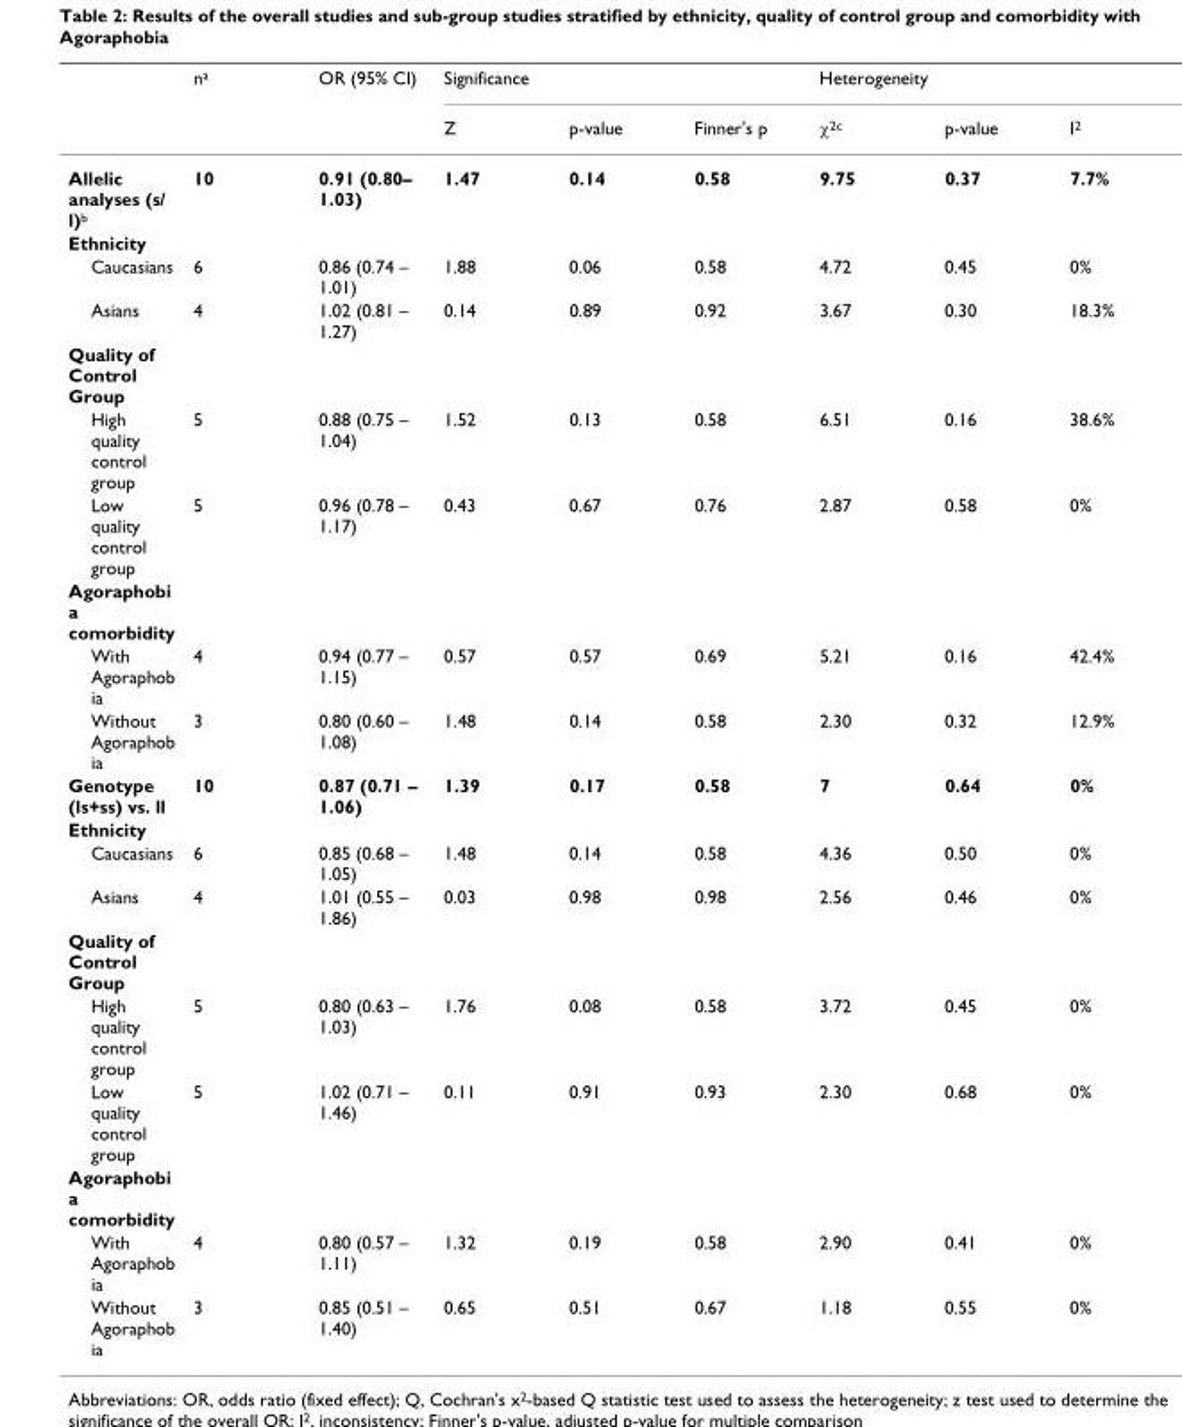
<table><thead><tr><td rowspan="2"></td><td rowspan="2">n<sup>a</sup></td><td rowspan="2">OR (95% CI)</td><td colspan="3">Significance</td><td colspan="3">Heterogeneity</td></tr><tr><td>Z</td><td>p-value</td><td>Finner&#x27;s p</td><td>χ<sup>2c</sup></td><td>p-value</td><td>I<sup>2</sup></td></tr></thead><tbody><tr><td>Allelic analyses (s/ l)<sup>b</sup></td><td>10</td><td>0.91 (0.80– 1.03)</td><td>1.47</td><td>0.14</td><td>0.58</td><td>9.75</td><td>0.37</td><td>7.7%</td></tr><tr><td colspan="9">Ethnicity</td></tr><tr><td>Caucasians</td><td>6</td><td>0.86 (0.74 – 1.01)</td><td>1.88</td><td>0.06</td><td>0.58</td><td>4.72</td><td>0.45</td><td>0%</td></tr><tr><td>Asians</td><td>4</td><td>1.02 (0.81 – 1.27)</td><td>0.14</td><td>0.89</td><td>0.92</td><td>3.67</td><td>0.30</td><td>18.3%</td></tr><tr><td colspan="9">Quality of Control Group</td></tr><tr><td>High quality control group</td><td>5</td><td>0.88 (0.75 – 1.04)</td><td>1.52</td><td>0.13</td><td>0.58</td><td>6.51</td><td>0.16</td><td>38.6%</td></tr><tr><td>Low quality control group</td><td>5</td><td>0.96 (0.78 – 1.17)</td><td>0.43</td><td>0.67</td><td>0.76</td><td>2.87</td><td>0.58</td><td>0%</td></tr><tr><td colspan="9">Agoraphobi a comorbidity</td></tr><tr><td>With Agoraphob ia</td><td>4</td><td>0.94 (0.77 – 1.15)</td><td>0.57</td><td>0.57</td><td>0.69</td><td>5.21</td><td>0.16</td><td>42.4%</td></tr><tr><td>Without Agoraphob ia</td><td>3</td><td>0.80 (0.60 – 1.08)</td><td>1.48</td><td>0.14</td><td>0.58</td><td>2.30</td><td>0.32</td><td>12.9%</td></tr><tr><td>Genotype (ls+ss) vs. ll</td><td>10</td><td>0.87 (0.71 – 1.06)</td><td>1.39</td><td>0.17</td><td>0.58</td><td>7</td><td>0.64</td><td>0%</td></tr><tr><td colspan="9">Ethnicity</td></tr><tr><td>Caucasians</td><td>6</td><td>0.85 (0.68 – 1.05)</td><td>1.48</td><td>0.14</td><td>0.58</td><td>4.36</td><td>0.50</td><td>0%</td></tr><tr><td>Asians</td><td>4</td><td>1.01 (0.55 – 1.86)</td><td>0.03</td><td>0.98</td><td>0.98</td><td>2.56</td><td>0.46</td><td>0%</td></tr><tr><td colspan="9">Quality of Control Group</td></tr><tr><td>High quality control group</td><td>5</td><td>0.80 (0.63 – 1.03)</td><td>1.76</td><td>0.08</td><td>0.58</td><td>3.72</td><td>0.45</td><td>0%</td></tr><tr><td>Low quality control group</td><td>5</td><td>1.02 (0.71 – 1.46)</td><td>0.11</td><td>0.91</td><td>0.93</td><td>2.30</td><td>0.68</td><td>0%</td></tr><tr><td colspan="9">Agoraphobi a comorbidity</td></tr><tr><td>With Agoraphob ia</td><td>4</td><td>0.80 (0.57 – 1.11)</td><td>1.32</td><td>0.19</td><td>0.58</td><td>2.90</td><td>0.41</td><td>0%</td></tr><tr><td>Without Agoraphob ia</td><td>3</td><td>0.85 (0.51 – 1.40)</td><td>0.65</td><td>0.51</td><td>0.67</td><td>1.18</td><td>0.55</td><td>0%</td></tr></tbody></table>